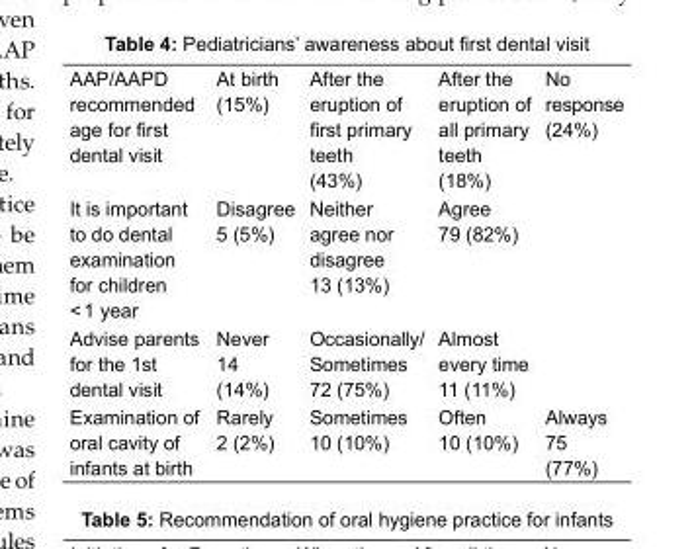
<table><tbody><tr><td>AAP/AAPD recommended age for first dental visit</td><td>At birth (15%)</td><td>After the eruption of first primary teeth (43%)</td><td>After the eruption of all primary teeth (18%)</td><td>No response (24%)</td></tr><tr><td>It is important to do dental examination for children &lt; 1 year</td><td>Disagree 5 (5%)</td><td>Neither agree nor disagree 13 (13%)</td><td>Agree 79 (82%)</td><td></td></tr><tr><td>Advise parents for the 1st dental visit</td><td>Never 14 (14%)</td><td>Occasionally/ Sometimes 72 (75%)</td><td>Almost every time 11 (11%)</td><td></td></tr><tr><td>Examination of oral cavity of infants at birth</td><td>Rarely 2 (2%)</td><td>Sometimes 10 (10%)</td><td>Often 10 (10%)</td><td>Always 75 (77%)</td></tr></tbody></table>